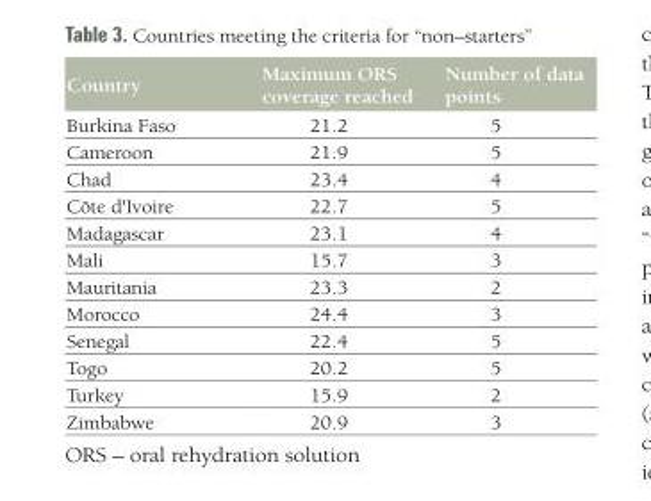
<table><thead><tr><td>Country</td><td>Maximum ORS coverage reached</td><td>Number of data points</td></tr></thead><tbody><tr><td>Burkina Faso</td><td>21.2</td><td>5</td></tr><tr><td>Cameroon</td><td>21.9</td><td>5</td></tr><tr><td>Chad</td><td>23.4</td><td>4</td></tr><tr><td>Côte d&#x27;Ivoire</td><td>22.7</td><td>5</td></tr><tr><td>Madagascar</td><td>23.1</td><td>4</td></tr><tr><td>Mali</td><td>15.7</td><td>3</td></tr><tr><td>Mauritania</td><td>23.3</td><td>2</td></tr><tr><td>Morocco</td><td>24.4</td><td>3</td></tr><tr><td>Senegal</td><td>22.4</td><td>5</td></tr><tr><td>Togo</td><td>20.2</td><td>5</td></tr><tr><td>Turkey</td><td>15.9</td><td>2</td></tr><tr><td>Zimbabwe</td><td>20.9</td><td>3</td></tr></tbody></table>